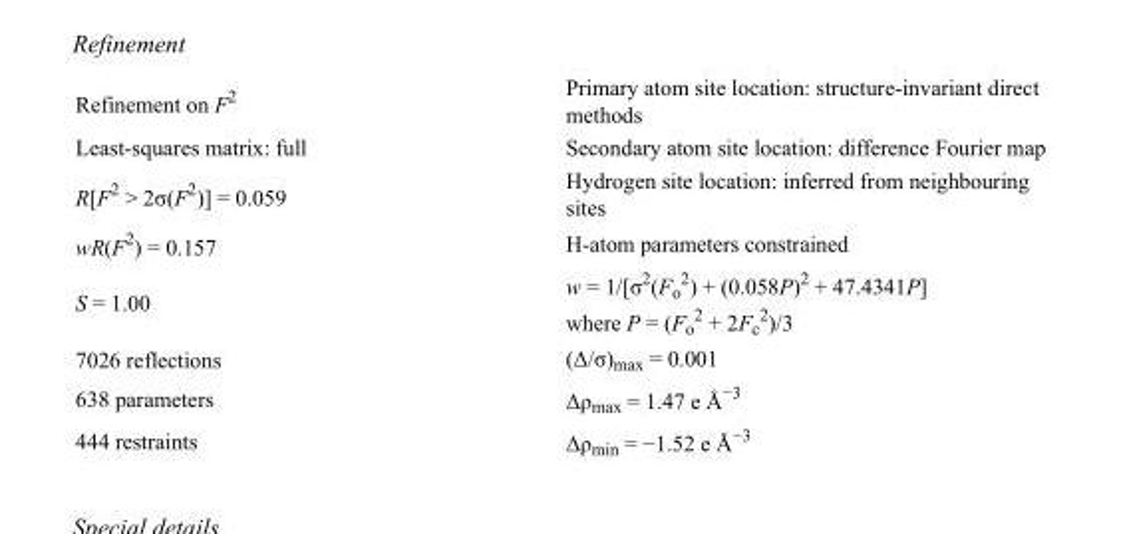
<table><tbody><tr><td>Refinement on F<sup>2</sup></td><td>Primary atom site location: structure-invariant direct methods</td></tr><tr><td>Least-squares matrix: full</td><td>Secondary atom site location: difference Fourier map</td></tr><tr><td>R[F<sup>2</sup> &gt; 2σ(F<sup>2</sup>)] = 0.059</td><td>Hydrogen site location: inferred from neighbouring sites</td></tr><tr><td>wR(F<sup>2</sup>) = 0.157</td><td>H-atom parameters constrained</td></tr><tr><td>S = 1.00</td><td>w = 1/[σ<sup>2</sup>(F<sub>o</sub> <sup>2</sup>) + (0.058P)<sup>2</sup> + 47.4341P] where P = (F<sub>o</sub> <sup>2</sup> + 2F<sub>c</sub> <sup>2</sup>)/3</td></tr><tr><td>7026 reflections</td><td>(Δ/σ)<sub>max</sub> = 0.001</td></tr><tr><td>638 parameters</td><td>Δρ<sub>max</sub> = 1.47 e Å<sup>−3</sup></td></tr><tr><td>444 restraints</td><td>Δρmin = −1.52 e Å−3</td></tr></tbody></table>